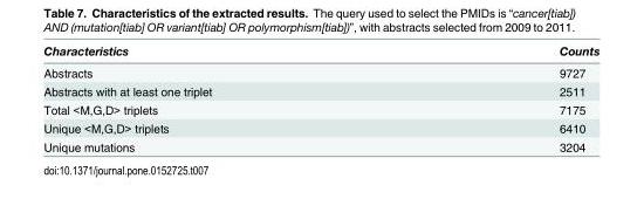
<table><thead><tr><td>Characteristics</td><td>Counts</td></tr></thead><tbody><tr><td>Abstracts</td><td>9727</td></tr><tr><td>Abstracts with at least one triplet</td><td>2511</td></tr><tr><td>Total &lt;M,G,D&gt; triplets</td><td>7175</td></tr><tr><td>Unique &lt;M,G,D&gt; triplets</td><td>6410</td></tr><tr><td>Unique mutations</td><td>3204</td></tr></tbody></table>